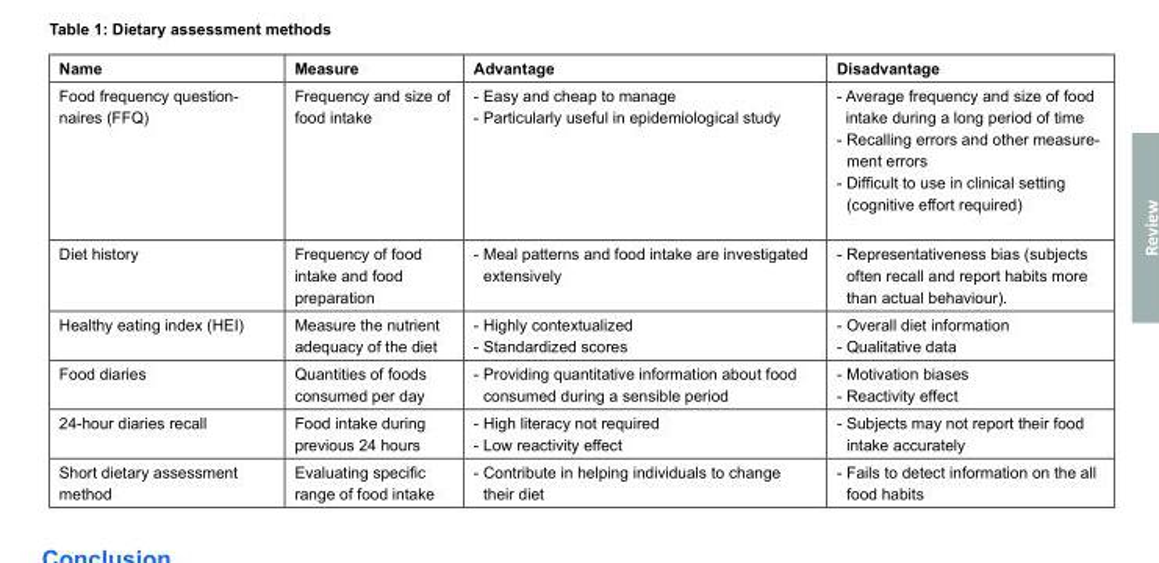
<table><thead><tr><td>Name</td><td>Measure</td><td>Advantage</td><td>Disadvantage</td></tr></thead><tbody><tr><td>Food frequency question- naires (FFQ)</td><td>Frequency and size of food intake</td><td>- Easy and cheap to manage - Particularly useful in epidemiological study</td><td>- Average frequency and size of food intake during a long period of time - Recalling errors and other measure- ment errors - Difficult to use in clinical setting (cognitive effort required)</td></tr><tr><td>Diet history</td><td>Frequency of food intake and food preparation</td><td>- Meal patterns and food intake are investigated extensively</td><td>- Representativeness bias (subjects often recall and report habits more than actual behaviour).</td></tr><tr><td>Healthy eating index (HEI)</td><td>Measure the nutrient adequacy of the diet</td><td>- Highly contextualized - Standardized scores</td><td>- Overall diet information - Qualitative data</td></tr><tr><td>Food diaries</td><td>Quantities of foods consumed per day</td><td>- Providing quantitative information about food consumed during a sensible period</td><td>- Motivation biases - Reactivity effect</td></tr><tr><td>24-hour diaries recall</td><td>Food intake during previous 24 hours</td><td>- High literacy not required - Low reactivity effect</td><td>- Subjects may not report their food intake accurately</td></tr><tr><td>Short dietary assessment method</td><td>Evaluating specific range of food intake</td><td>- Contribute in helping individuals to change their diet</td><td>- Fails to detect information on the all food habits</td></tr></tbody></table>